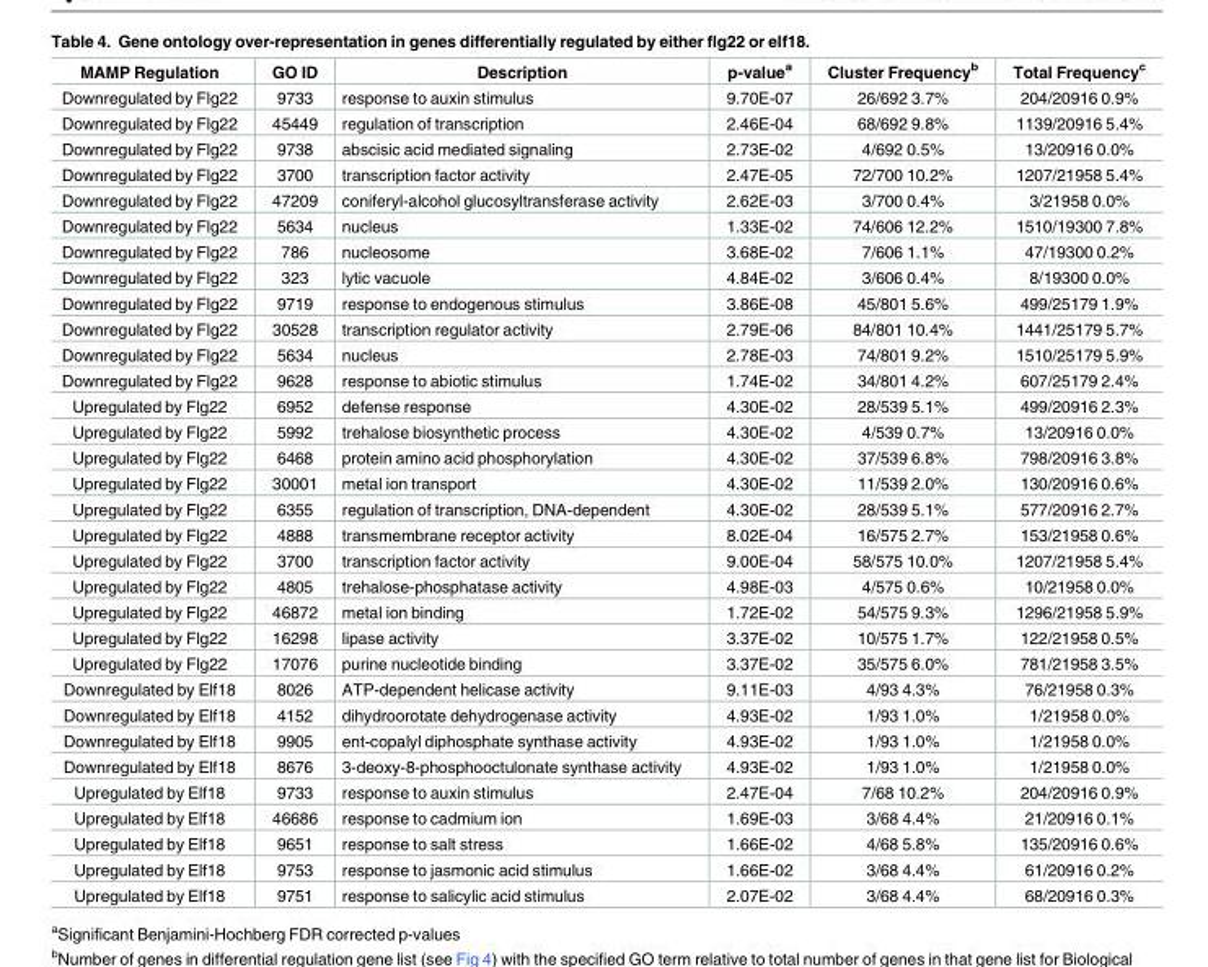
<table><thead><tr><td>MAMP Regulation</td><td>GO ID</td><td>Description</td><td>p-value<sup>a</sup></td><td>Cluster Frequency<sup>b</sup></td><td>Total Frequency<sup>c</sup></td></tr></thead><tbody><tr><td>Downregulated by Flg22</td><td>9733</td><td>response to auxin stimulus</td><td>9.70E-07</td><td>26/692 3.7%</td><td>204/20916 0.9%</td></tr><tr><td>Downregulated by Flg22</td><td>45449</td><td>regulation of transcription</td><td>2.46E-04</td><td>68/692 9.8%</td><td>1139/20916 5.4%</td></tr><tr><td>Downregulated by Flg22</td><td>9738</td><td>abscisic acid mediated signaling</td><td>2.73E-02</td><td>4/692 0.5%</td><td>13/20916 0.0%</td></tr><tr><td>Downregulated by Flg22</td><td>3700</td><td>transcription factor activity</td><td>2.47E-05</td><td>72/700 10.2%</td><td>1207/21958 5.4%</td></tr><tr><td>Downregulated by Flg22</td><td>47209</td><td>coniferyl-alcohol glucosyltransferase activity</td><td>2.62E-03</td><td>3/700 0.4%</td><td>3/21958 0.0%</td></tr><tr><td>Downregulated by Flg22</td><td>5634</td><td>nucleus</td><td>1.33E-02</td><td>74/606 12.2%</td><td>1510/19300 7.8%</td></tr><tr><td>Downregulated by Flg22</td><td>786</td><td>nucleosome</td><td>3.68E-02</td><td>7/606 1.1%</td><td>47/19300 0.2%</td></tr><tr><td>Downregulated by Flg22</td><td>323</td><td>lytic vacuole</td><td>4.84E-02</td><td>3/606 0.4%</td><td>8/19300 0.0%</td></tr><tr><td>Downregulated by Flg22</td><td>9719</td><td>response to endogenous stimulus</td><td>3.86E-08</td><td>45/801 5.6%</td><td>499/25179 1.9%</td></tr><tr><td>Downregulated by Flg22</td><td>30528</td><td>transcription regulator activity</td><td>2.79E-06</td><td>84/801 10.4%</td><td>1441/25179 5.7%</td></tr><tr><td>Downregulated by Flg22</td><td>5634</td><td>nucleus</td><td>2.78E-03</td><td>74/801 9.2%</td><td>1510/25179 5.9%</td></tr><tr><td>Downregulated by Flg22</td><td>9628</td><td>response to abiotic stimulus</td><td>1.74E-02</td><td>34/801 4.2%</td><td>607/25179 2.4%</td></tr><tr><td>Upregulated by Flg22</td><td>6952</td><td>defense response</td><td>4.30E-02</td><td>28/539 5.1%</td><td>499/20916 2.3%</td></tr><tr><td>Upregulated by Flg22</td><td>5992</td><td>trehalose biosynthetic process</td><td>4.30E-02</td><td>4/539 0.7%</td><td>13/20916 0.0%</td></tr><tr><td>Upregulated by Flg22</td><td>6468</td><td>protein amino acid phosphorylation</td><td>4.30E-02</td><td>37/539 6.8%</td><td>798/20916 3.8%</td></tr><tr><td>Upregulated by Flg22</td><td>30001</td><td>metal ion transport</td><td>4.30E-02</td><td>11/539 2.0%</td><td>130/20916 0.6%</td></tr><tr><td>Upregulated by Flg22</td><td>6355</td><td>regulation of transcription, DNA-dependent</td><td>4.30E-02</td><td>28/539 5.1%</td><td>577/20916 2.7%</td></tr><tr><td>Upregulated by Flg22</td><td>4888</td><td>transmembrane receptor activity</td><td>8.02E-04</td><td>16/575 2.7%</td><td>153/21958 0.6%</td></tr><tr><td>Upregulated by Flg22</td><td>3700</td><td>transcription factor activity</td><td>9.00E-04</td><td>58/575 10.0%</td><td>1207/21958 5.4%</td></tr><tr><td>Upregulated by Flg22</td><td>4805</td><td>trehalose-phosphatase activity</td><td>4.98E-03</td><td>4/575 0.6%</td><td>10/21958 0.0%</td></tr><tr><td>Upregulated by Flg22</td><td>46872</td><td>metal ion binding</td><td>1.72E-02</td><td>54/575 9.3%</td><td>1296/21958 5.9%</td></tr><tr><td>Upregulated by Flg22</td><td>16298</td><td>lipase activity</td><td>3.37E-02</td><td>10/575 1.7%</td><td>122/21958 0.5%</td></tr><tr><td>Upregulated by Flg22</td><td>17076</td><td>purine nucleotide binding</td><td>3.37E-02</td><td>35/575 6.0%</td><td>781/21958 3.5%</td></tr><tr><td>Downregulated by Elf18</td><td>8026</td><td>ATP-dependent helicase activity</td><td>9.11E-03</td><td>4/93 4.3%</td><td>76/21958 0.3%</td></tr><tr><td>Downregulated by Elf18</td><td>4152</td><td>dihydroorotate dehydrogenase activity</td><td>4.93E-02</td><td>1/93 1.0%</td><td>1/21958 0.0%</td></tr><tr><td>Downregulated by Elf18</td><td>9905</td><td>ent-copalyl diphosphate synthase activity</td><td>4.93E-02</td><td>1/93 1.0%</td><td>1/21958 0.0%</td></tr><tr><td>Downregulated by Elf18</td><td>8676</td><td>3-deoxy-8-phosphooctulonate synthase activity</td><td>4.93E-02</td><td>1/93 1.0%</td><td>1/21958 0.0%</td></tr><tr><td>Upregulated by Elf18</td><td>9733</td><td>response to auxin stimulus</td><td>2.47E-04</td><td>7/68 10.2%</td><td>204/20916 0.9%</td></tr><tr><td>Upregulated by Elf18</td><td>46686</td><td>response to cadmium ion</td><td>1.69E-03</td><td>3/68 4.4%</td><td>21/20916 0.1%</td></tr><tr><td>Upregulated by Elf18</td><td>9651</td><td>response to salt stress</td><td>1.66E-02</td><td>4/68 5.8%</td><td>135/20916 0.6%</td></tr><tr><td>Upregulated by Elf18</td><td>9753</td><td>response to jasmonic acid stimulus</td><td>1.66E-02</td><td>3/68 4.4%</td><td>61/20916 0.2%</td></tr><tr><td>Upregulated by Elf18</td><td>9751</td><td>response to salicylic acid stimulus</td><td>2.07E-02</td><td>3/68 4.4%</td><td>68/20916 0.3%</td></tr></tbody></table>